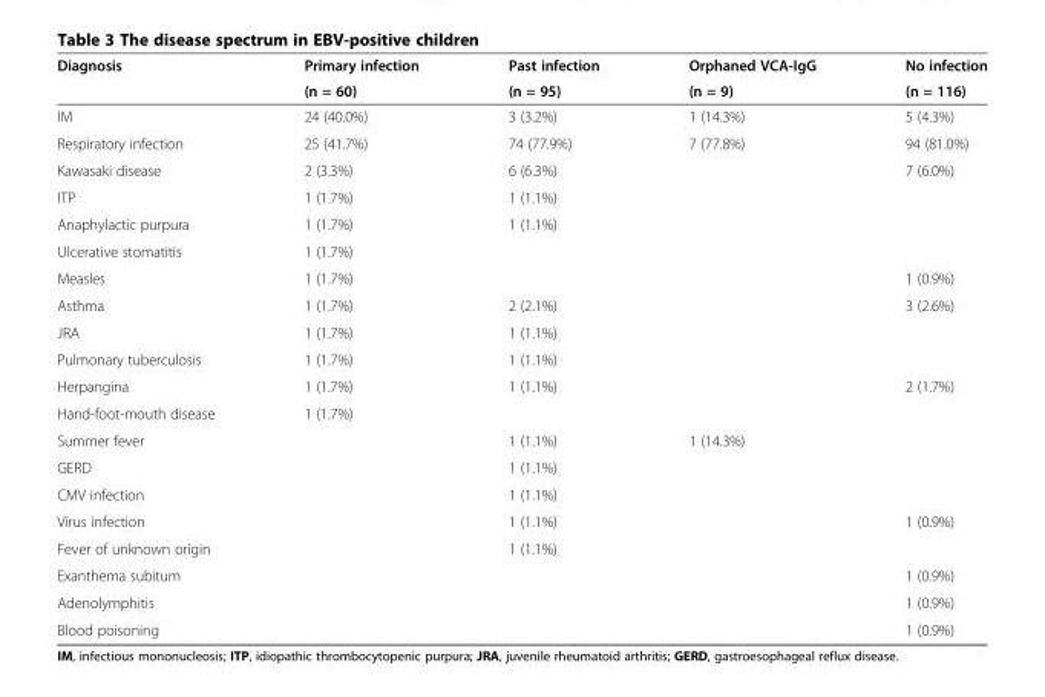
<table><thead><tr><td rowspan="2">Diagnosis</td><td rowspan="2">Primary infection (n = 60)</td><td rowspan="2">Past infection (n = 95)</td><td rowspan="2">Orphaned VCA-IgG (n = 9)</td><td rowspan="2">No infection (n = 116)</td></tr><tr></tr></thead><tbody><tr><td>IM</td><td>24 (40.0%)</td><td>3 (3.2%)</td><td>1 (14.3%)</td><td>5 (4.3%)</td></tr><tr><td>Respiratory infection</td><td>25 (41.7%)</td><td>74 (77.9%)</td><td>7 (77.8%)</td><td>94 (81.0%)</td></tr><tr><td>Kawasaki disease</td><td>2 (3.3%)</td><td>6 (6.3%)</td><td></td><td>7 (6.0%)</td></tr><tr><td>ITP</td><td>1 (1.7%)</td><td>1 (1.1%)</td><td></td><td></td></tr><tr><td>Anaphylactic purpura</td><td>1 (1.7%)</td><td>1 (1.1%)</td><td></td><td></td></tr><tr><td>Ulcerative stomatitis</td><td>1 (1.7%)</td><td></td><td></td><td></td></tr><tr><td>Measles</td><td>1 (1.7%)</td><td></td><td></td><td>1 (0.9%)</td></tr><tr><td>Asthma</td><td>1 (1.7%)</td><td>2 (2.1%)</td><td></td><td>3 (2.6%)</td></tr><tr><td>JRA</td><td>1 (1.7%)</td><td>1 (1.1%)</td><td></td><td></td></tr><tr><td>Pulmonary tuberculosis</td><td>1 (1.7%)</td><td>1 (1.1%)</td><td></td><td></td></tr><tr><td>Herpangina</td><td>1 (1.7%)</td><td>1 (1.1%)</td><td></td><td>2 (1.7%)</td></tr><tr><td>Hand-foot-mouth disease</td><td>1 (1.7%)</td><td></td><td></td><td></td></tr><tr><td>Summer fever</td><td></td><td>1 (1.1%)</td><td>1 (14.3%)</td><td></td></tr><tr><td>GERD</td><td></td><td>1 (1.1%)</td><td></td><td></td></tr><tr><td>CMV infection</td><td></td><td>1 (1.1%)</td><td></td><td></td></tr><tr><td>Virus infection</td><td></td><td>1 (1.1%)</td><td></td><td>1 (0.9%)</td></tr><tr><td>Fever of unknown origin</td><td></td><td>1 (1.1%)</td><td></td><td></td></tr><tr><td>Exanthema subitum</td><td></td><td></td><td></td><td>1 (0.9%)</td></tr><tr><td>Adenolymphitis</td><td></td><td></td><td></td><td>1 (0.9%)</td></tr><tr><td>Blood poisoning</td><td></td><td></td><td></td><td>1 (0.9%)</td></tr></tbody></table>